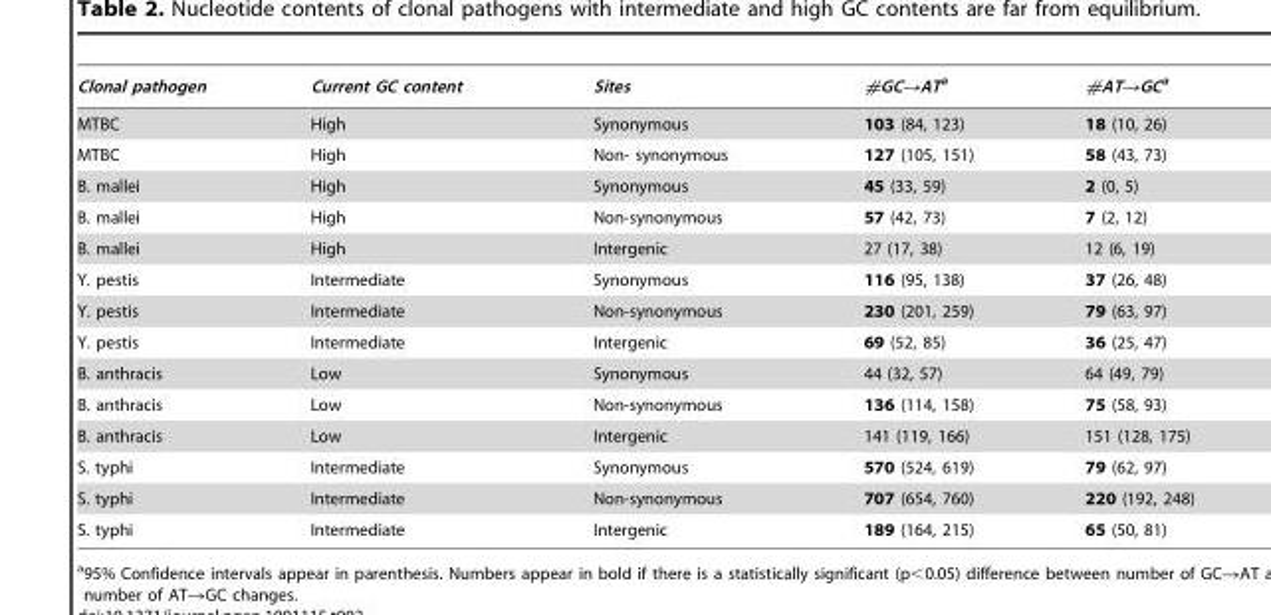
<table><thead><tr><td>Clonal pathogen</td><td>Current GC content</td><td>Sites</td><td>#GC→ATa</td><td>#AT→GCa</td></tr></thead><tbody><tr><td>MTBC</td><td>High</td><td>Synonymous</td><td>103 (84, 123)</td><td>18 (10, 26)</td></tr><tr><td>MTBC</td><td>High</td><td>Non- synonymous</td><td>127 (105, 151)</td><td>58 (43, 73)</td></tr><tr><td>B. mallei</td><td>High</td><td>Synonymous</td><td>45 (33, 59)</td><td>2 (0, 5)</td></tr><tr><td>B. mallei</td><td>High</td><td>Non-synonymous</td><td>57 (42, 73)</td><td>7 (2, 12)</td></tr><tr><td>B. mallei</td><td>High</td><td>Intergenic</td><td>27 (17, 38)</td><td>12 (6, 19)</td></tr><tr><td>Y. pestis</td><td>Intermediate</td><td>Synonymous</td><td>116 (95, 138)</td><td>37 (26, 48)</td></tr><tr><td>Y. pestis</td><td>Intermediate</td><td>Non-synonymous</td><td>230 (201, 259)</td><td>79 (63, 97)</td></tr><tr><td>Y. pestis</td><td>Intermediate</td><td>Intergenic</td><td>69 (52, 85)</td><td>36 (25, 47)</td></tr><tr><td>B. anthracis</td><td>Low</td><td>Synonymous</td><td>44 (32, 57)</td><td>64 (49, 79)</td></tr><tr><td>B. anthracis</td><td>Low</td><td>Non-synonymous</td><td>136 (114, 158)</td><td>75 (58, 93)</td></tr><tr><td>B. anthracis</td><td>Low</td><td>Intergenic</td><td>141 (119, 166)</td><td>151 (128, 175)</td></tr><tr><td>S. typhi</td><td>Intermediate</td><td>Synonymous</td><td>570 (524, 619)</td><td>79 (62, 97)</td></tr><tr><td>S. typhi</td><td>Intermediate</td><td>Non-synonymous</td><td>707 (654, 760)</td><td>220 (192, 248)</td></tr><tr><td>S. typhi</td><td>Intermediate</td><td>Intergenic</td><td>189 (164, 215)</td><td>65 (50, 81)</td></tr></tbody></table>